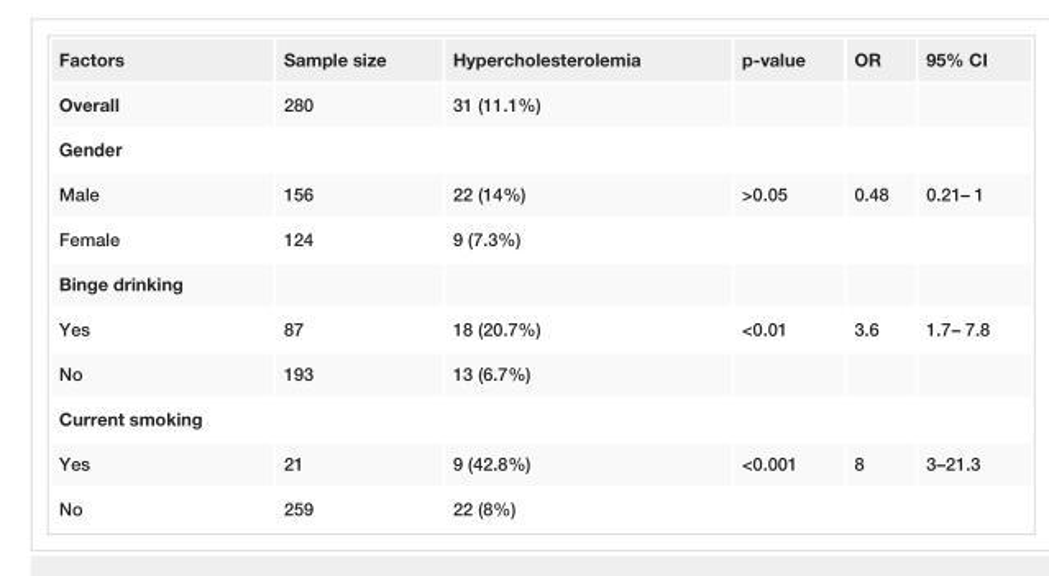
<table><tbody><tr><td>Factors</td><td>Sample size</td><td>Hypercholesterolemia</td><td>p-value</td><td>OR</td><td>95% CI</td></tr><tr><td>Overall</td><td>280</td><td>31 (11.1%)</td><td></td><td></td><td></td></tr><tr><td colspan="6">Gender</td></tr><tr><td>Male</td><td>156</td><td>22 (14%)</td><td>&gt;0.05</td><td>0.48</td><td>0.21– 1</td></tr><tr><td>Female</td><td>124</td><td>9 (7.3%)</td><td></td><td></td><td></td></tr><tr><td colspan="6">Binge drinking</td></tr><tr><td>Yes</td><td>87</td><td>18 (20.7%)</td><td>&lt;0.01</td><td>3.6</td><td>1.7– 7.8</td></tr><tr><td>No</td><td>193</td><td>13 (6.7%)</td><td></td><td></td><td></td></tr><tr><td colspan="6">Current smoking</td></tr><tr><td>Yes</td><td>21</td><td>9 (42.8%)</td><td>&lt;0.001</td><td>8</td><td>3–21.3</td></tr><tr><td>No</td><td>259</td><td>22 (8%)</td><td></td><td></td><td></td></tr></tbody></table>